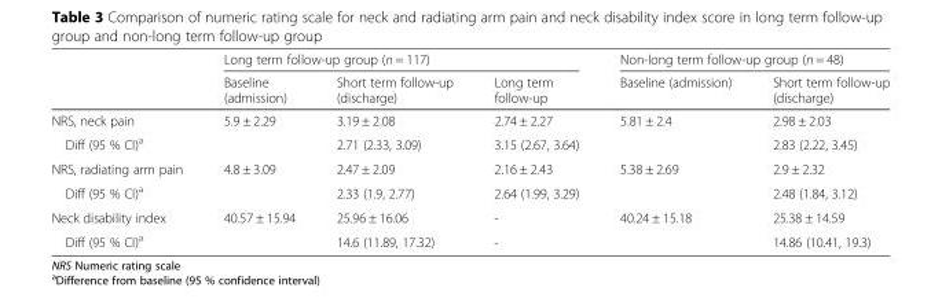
<table><thead><tr><td rowspan="2"></td><td colspan="3">Long term follow-up group (n = 117)</td><td colspan="2">Non-long term follow-up group (n = 48)</td></tr><tr><td>Baseline (admission)</td><td>Short term follow-up (discharge)</td><td>Long term follow-up</td><td>Baseline (admission)</td><td>Short term follow-up (discharge)</td></tr></thead><tbody><tr><td>NRS, neck pain</td><td>5.9 ± 2.29</td><td>3.19 ± 2.08</td><td>2.74 ± 2.27</td><td>5.81 ± 2.4</td><td>2.98 ± 2.03</td></tr><tr><td>Diff (95 % CI)<sup>a</sup></td><td></td><td>2.71 (2.33, 3.09)</td><td>3.15 (2.67, 3.64)</td><td></td><td>2.83 (2.22, 3.45)</td></tr><tr><td>NRS, radiating arm pain</td><td>4.8 ± 3.09</td><td>2.47 ± 2.09</td><td>2.16 ± 2.43</td><td>5.38 ± 2.69</td><td>2.9 ± 2.32</td></tr><tr><td>Diff (95 % CI)<sup>a</sup></td><td></td><td>2.33 (1.9, 2.77)</td><td>2.64 (1.99, 3.29)</td><td></td><td>2.48 (1.84, 3.12)</td></tr><tr><td>Neck disability index</td><td>40.57 ± 15.94</td><td>25.96 ± 16.06</td><td>-</td><td>40.24 ± 15.18</td><td>25.38 ± 14.59</td></tr><tr><td>Diff (95 % CI)<sup>a</sup></td><td></td><td>14.6 (11.89, 17.32)</td><td>-</td><td></td><td>14.86 (10.41, 19.3)</td></tr></tbody></table>